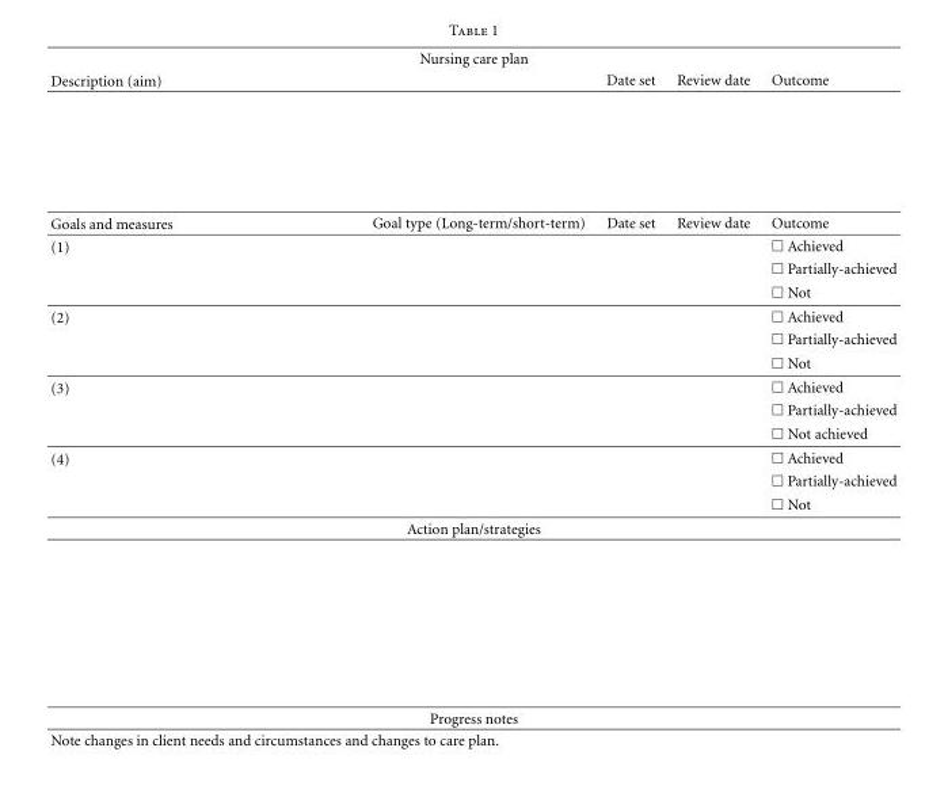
<table><thead><tr><td colspan="5">Nursing care plan</td></tr><tr><td>Description (aim)</td><td></td><td>Date set</td><td>Review date</td><td>Outcome</td></tr></thead><tbody><tr><td>Goals and measures</td><td>Goal type (Long-term/short-term)</td><td>Date set</td><td>Review date</td><td>Outcome</td></tr><tr><td rowspan="3">(1)</td><td></td><td></td><td></td><td>□ Achieved</td></tr><tr><td></td><td></td><td></td><td>□ Partially-achieved</td></tr><tr><td></td><td></td><td></td><td>□ Not</td></tr><tr><td rowspan="3">(2)</td><td></td><td></td><td></td><td>□ Achieved</td></tr><tr><td></td><td></td><td></td><td>□ Partially-achieved</td></tr><tr><td></td><td></td><td></td><td>□ Not</td></tr><tr><td rowspan="3">(3)</td><td></td><td></td><td></td><td>□ Achieved</td></tr><tr><td></td><td></td><td></td><td>□ Partially-achieved</td></tr><tr><td></td><td></td><td></td><td>□ Not achieved</td></tr><tr><td rowspan="3">(4)</td><td></td><td></td><td></td><td>□ Achieved</td></tr><tr><td></td><td></td><td></td><td>□ Partially-achieved</td></tr><tr><td></td><td></td><td></td><td>□ Not</td></tr><tr><td colspan="5">Action plan/strategies</td></tr><tr><td colspan="5">Progress notes</td></tr><tr><td colspan="3">Note changes in client needs and circumstances and changes to care plan.</td><td></td><td></td></tr></tbody></table>